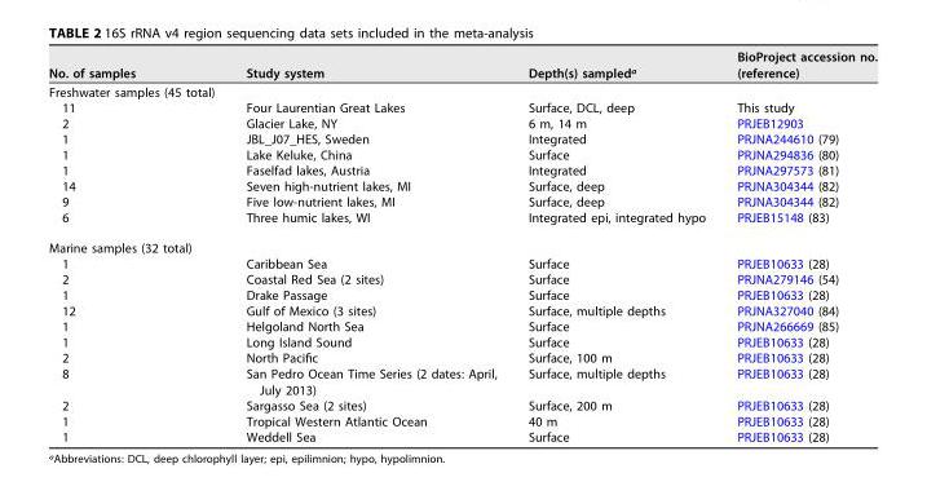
<table><thead><tr><td>No. of samples</td><td>Study system</td><td>Depth(s) sampled<sup>a</sup></td><td>BioProject accession no. (reference)</td></tr></thead><tbody><tr><td colspan="4">Freshwater samples (45 total)</td></tr><tr><td>11</td><td>Four Laurentian Great Lakes</td><td>Surface, DCL, deep</td><td>This study</td></tr><tr><td>2</td><td>Glacier Lake, NY</td><td>6 m, 14 m</td><td>PRJEB12903</td></tr><tr><td>1</td><td>JBL_J07_HES, Sweden</td><td>Integrated</td><td>PRJNA244610 (79)</td></tr><tr><td>1</td><td>Lake Keluke, China</td><td>Surface</td><td>PRJNA294836 (80)</td></tr><tr><td>1</td><td>Faselfad lakes, Austria</td><td>Integrated</td><td>PRJNA297573 (81)</td></tr><tr><td>14</td><td>Seven high-nutrient lakes, MI</td><td>Surface, deep</td><td>PRJNA304344 (82)</td></tr><tr><td>9</td><td>Five low-nutrient lakes, MI</td><td>Surface, deep</td><td>PRJNA304344 (82)</td></tr><tr><td>6</td><td>Three humic lakes, WI</td><td>Integrated epi, integrated hypo</td><td>PRJEB15148 (83)</td></tr><tr><td colspan="4">Marine samples (32 total)</td></tr><tr><td>1</td><td>Caribbean Sea</td><td>Surface</td><td>PRJEB10633 (28)</td></tr><tr><td>2</td><td>Coastal Red Sea (2 sites)</td><td>Surface</td><td>PRJNA279146 (54)</td></tr><tr><td>1</td><td>Drake Passage</td><td>Surface</td><td>PRJEB10633 (28)</td></tr><tr><td>12</td><td>Gulf of Mexico (3 sites)</td><td>Surface, multiple depths</td><td>PRJNA327040 (84)</td></tr><tr><td>1</td><td>Helgoland North Sea</td><td>Surface</td><td>PRJNA266669 (85)</td></tr><tr><td>1</td><td>Long Island Sound</td><td>Surface</td><td>PRJEB10633 (28)</td></tr><tr><td>2</td><td>North Pacific</td><td>Surface, 100 m</td><td>PRJEB10633 (28)</td></tr><tr><td>8</td><td>San Pedro Ocean Time Series (2 dates: April, July 2013)</td><td>Surface, multiple depths</td><td>PRJEB10633 (28)</td></tr><tr><td>2</td><td>Sargasso Sea (2 sites)</td><td>Surface, 200 m</td><td>PRJEB10633 (28)</td></tr><tr><td>1</td><td>Tropical Western Atlantic Ocean</td><td>40 m</td><td>PRJEB10633 (28)</td></tr><tr><td>1</td><td>Weddell Sea</td><td>Surface</td><td>PRJEB10633 (28)</td></tr></tbody></table>